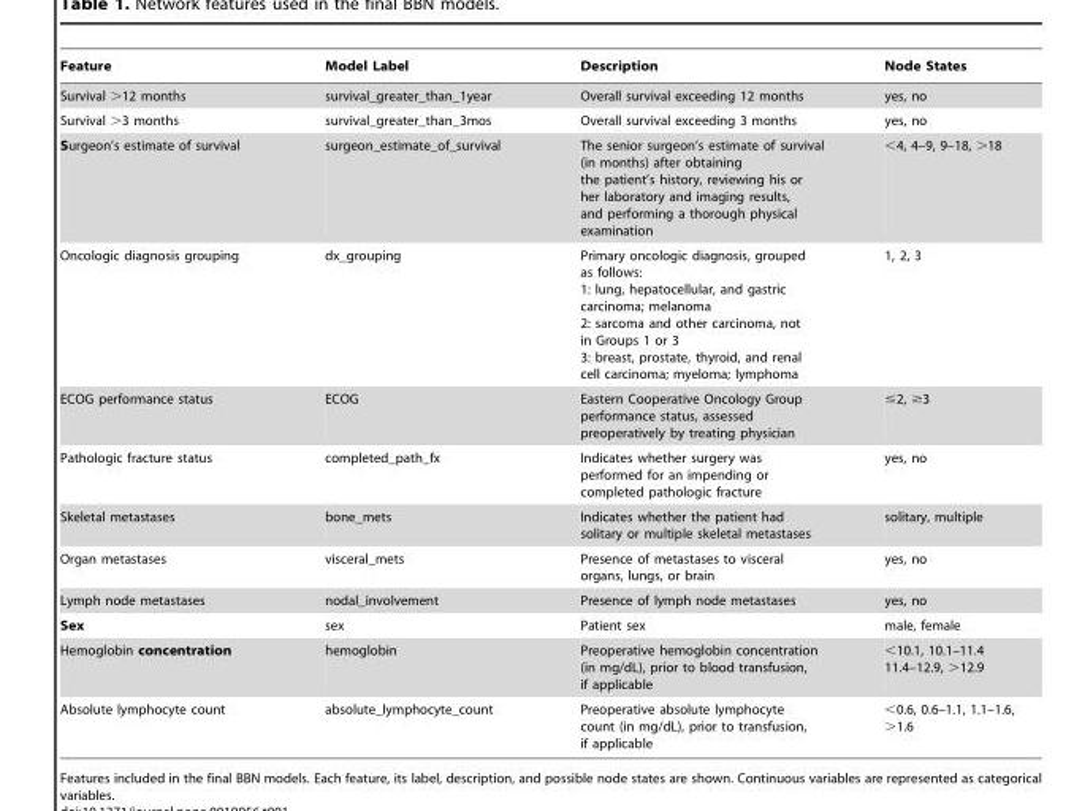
<table><thead><tr><td>Feature</td><td>Model Label</td><td>Description</td><td>Node States</td></tr></thead><tbody><tr><td>Survival &gt;12 months</td><td>survival_greater_than_1year</td><td>Overall survival exceeding 12 months</td><td>yes, no</td></tr><tr><td>Survival &gt;3 months</td><td>survival_greater_than_3mos</td><td>Overall survival exceeding 3 months</td><td>yes, no</td></tr><tr><td>Surgeon’s estimate of survival</td><td>surgeon_estimate_of_survival</td><td>The senior surgeon’s estimate of survival (in months) after obtaining the patient’s history, reviewing his or her laboratory and imaging results, and performing a thorough physical examination</td><td>&lt;4, 4–9, 9–18, &gt;18</td></tr><tr><td>Oncologic diagnosis grouping</td><td>dx_grouping</td><td>Primary oncologic diagnosis, grouped as follows: 1: lung, hepatocellular, and gastric carcinoma; melanoma 2: sarcoma and other carcinoma, not in Groups 1 or 3 3: breast, prostate, thyroid, and renal cell carcinoma; myeloma; lymphoma</td><td>1, 2, 3</td></tr><tr><td>ECOG performance status</td><td>ECOG</td><td>Eastern Cooperative Oncology Group performance status, assessed preoperatively by treating physician</td><td>≤2, ≥3</td></tr><tr><td>Pathologic fracture status</td><td>completed_path_fx</td><td>Indicates whether surgery was performed for an impending or completed pathologic fracture</td><td>yes, no</td></tr><tr><td>Skeletal metastases</td><td>bone_mets</td><td>Indicates whether the patient had solitary or multiple skeletal metastases</td><td>solitary, multiple</td></tr><tr><td>Organ metastases</td><td>visceral_mets</td><td>Presence of metastases to visceral organs, lungs, or brain</td><td>yes, no</td></tr><tr><td>Lymph node metastases</td><td>nodal_involvement</td><td>Presence of lymph node metastases</td><td>yes, no</td></tr><tr><td>Sex</td><td>sex</td><td>Patient sex</td><td>male, female</td></tr><tr><td>Hemoglobin concentration</td><td>hemoglobin</td><td>Preoperative hemoglobin concentration (in mg/dL), prior to blood transfusion, if applicable</td><td>&lt;10.1, 10.1–11.4 11.4–12.9, &gt;12.9</td></tr><tr><td>Absolute lymphocyte count</td><td>absolute_lymphocyte_count</td><td>Preoperative absolute lymphocyte count (in mg/dL), prior to transfusion, if applicable</td><td>&lt;0.6, 0.6–1.1, 1.1–1.6, &gt;1.6</td></tr></tbody></table>